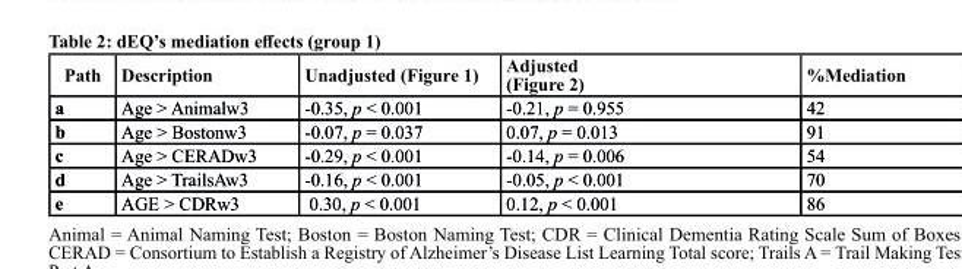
<table><thead><tr><td>Path</td><td>Description</td><td>Unadjusted (Figure 1)</td><td>Adjusted (Figure 2)</td><td>%Mediation</td></tr></thead><tbody><tr><td>a</td><td>Age &gt; Animalw3</td><td>-0.35, p &lt; 0.001</td><td>-0.21, p = 0.955</td><td>42</td></tr><tr><td>b</td><td>Age &gt; Bostonw3</td><td>-0.07, p = 0.037</td><td>0.07, p = 0.013</td><td>91</td></tr><tr><td>c</td><td>Age &gt; CERADw3</td><td>-0.29, p &lt; 0.001</td><td>-0.14, p = 0.006</td><td>54</td></tr><tr><td>d</td><td>Age &gt; TrailsAw3</td><td>-0.16, p &lt; 0.001</td><td>-0.05, p &lt; 0.001</td><td>70</td></tr><tr><td>e</td><td>AGE &gt; CDRw3</td><td>0.30, p &lt; 0.001</td><td>0.12, p &lt; 0.001</td><td>86</td></tr></tbody></table>